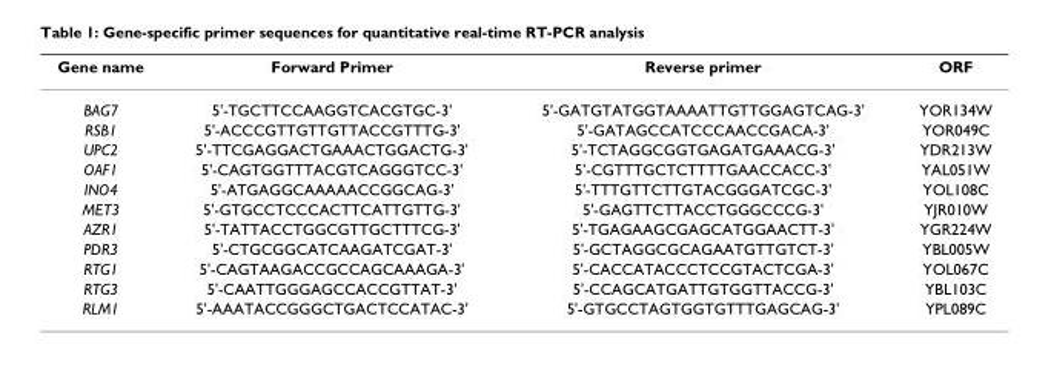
<table><thead><tr><td>Gene name</td><td>Forward Primer</td><td>Reverse primer</td><td>ORF</td></tr></thead><tbody><tr><td>BAG7</td><td>5&#x27;-TGCTTCCAAGGTCACGTGC-3&#x27;</td><td>5&#x27;-GATGTATGGTAAAATTGTTGGAGTCAG-3&#x27;</td><td>YOR134W</td></tr><tr><td>RSB1</td><td>5&#x27;-ACCCGTTGTTGTTACCGTTTG-3&#x27;</td><td>5&#x27;-GATAGCCATCCCAACCGACA-3&#x27;</td><td>YOR049C</td></tr><tr><td>UPC2</td><td>5&#x27;-TTCGAGGACTGAAACTGGACTG-3&#x27;</td><td>5&#x27;-TCTAGGCGGTGAGATGAAACG-3&#x27;</td><td>YDR213W</td></tr><tr><td>OAF1</td><td>5&#x27;-CAGTGGTTTACGTCAGGGTCC-3&#x27;</td><td>5&#x27;-CGTTTGCTCTTTTGAACCACC-3&#x27;</td><td>YAL051W</td></tr><tr><td>INO4</td><td>5&#x27;-ATGAGGCAAAAACCGGCAG-3&#x27;</td><td>5&#x27;-TTTGTTCTTGTACGGGATCGC-3&#x27;</td><td>YOL108C</td></tr><tr><td>MET3</td><td>5&#x27;-GTGCCTCCCACTTCATTGTTG-3&#x27;</td><td>5&#x27;-GAGTTCTTACCTGGGCCCG-3&#x27;</td><td>YJR010W</td></tr><tr><td>AZR1</td><td>5&#x27;-TATTACCTGGCGTTGCTTTCG-3&#x27;</td><td>5&#x27;-TGAGAAGCGAGCATGGAACTT-3&#x27;</td><td>YGR224W</td></tr><tr><td>PDR3</td><td>5&#x27;-CTGCGGCATCAAGATCGAT-3&#x27;</td><td>5&#x27;-GCTAGGCGCAGAATGTTGTCT-3&#x27;</td><td>YBL005W</td></tr><tr><td>RTG1</td><td>5&#x27;-CAGTAAGACCGCCAGCAAAGA-3&#x27;</td><td>5&#x27;-CACCATACCCTCCGTACTCGA-3&#x27;</td><td>YOL067C</td></tr><tr><td>RTG3</td><td>5&#x27;-CAATTGGGAGCCACCGTTAT-3&#x27;</td><td>5&#x27;-CCAGCATGATTGTGGTTACCG-3&#x27;</td><td>YBL103C</td></tr><tr><td>RLM1</td><td>5&#x27;-AAATACCGGGCTGACTCCATAC-3&#x27;</td><td>5&#x27;-GTGCCTAGTGGTGTTTGAGCAG-3&#x27;</td><td>YPL089C</td></tr></tbody></table>